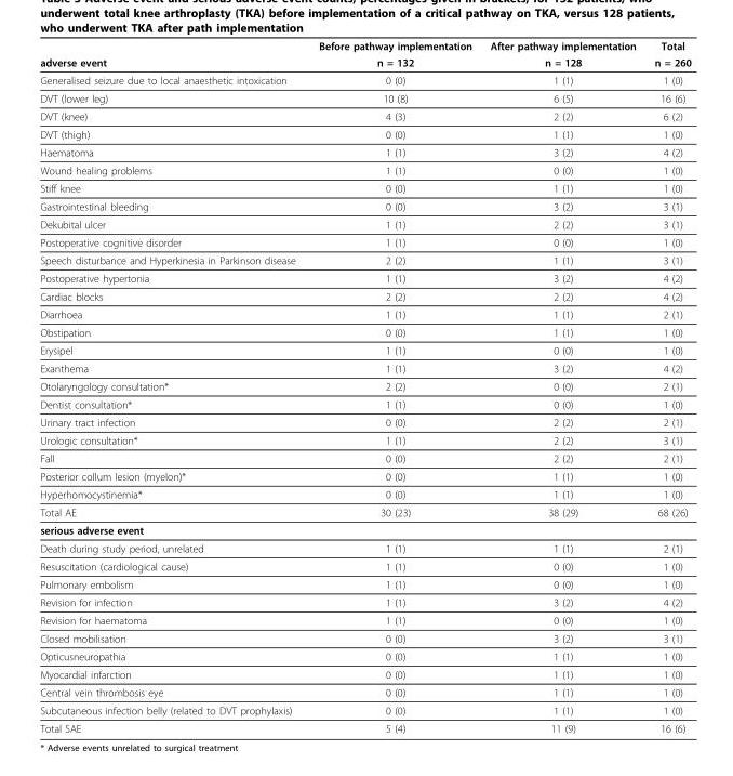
<table><thead><tr><td rowspan="2">adverse event</td><td rowspan="2">Before pathway implementation n = 132</td><td rowspan="2">After pathway implementation n = 128</td><td rowspan="2">Total n = 260</td></tr><tr></tr></thead><tbody><tr><td>Generalised seizure due to local anaesthetic intoxication</td><td>0 (0)</td><td>1 (1)</td><td>1 (0)</td></tr><tr><td>DVT (lower leg)</td><td>10 (8)</td><td>6 (5)</td><td>16 (6)</td></tr><tr><td>DVT (knee)</td><td>4 (3)</td><td>2 (2)</td><td>6 (2)</td></tr><tr><td>DVT (thigh)</td><td>0 (0)</td><td>1 (1)</td><td>1 (0)</td></tr><tr><td>Haematoma</td><td>1 (1)</td><td>3 (2)</td><td>4 (2)</td></tr><tr><td>Wound healing problems</td><td>1 (1)</td><td>0 (0)</td><td>1 (0)</td></tr><tr><td>Stiff knee</td><td>0 (0)</td><td>1 (1)</td><td>1 (0)</td></tr><tr><td>Gastrointestinal bleeding</td><td>0 (0)</td><td>3 (2)</td><td>3 (1)</td></tr><tr><td>Dekubital ulcer</td><td>1 (1)</td><td>2 (2)</td><td>3 (1)</td></tr><tr><td>Postoperative cognitive disorder</td><td>1 (1)</td><td>0 (0)</td><td>1 (0)</td></tr><tr><td>Speech disturbance and Hyperkinesia in Parkinson disease</td><td>2 (2)</td><td>1 (1)</td><td>3 (1)</td></tr><tr><td>Postoperative hypertonia</td><td>1 (1)</td><td>3 (2)</td><td>4 (2)</td></tr><tr><td>Cardiac blocks</td><td>2 (2)</td><td>2 (2)</td><td>4 (2)</td></tr><tr><td>Diarrhoea</td><td>1 (1)</td><td>1 (1)</td><td>2 (1)</td></tr><tr><td>Obstipation</td><td>0 (0)</td><td>1 (1)</td><td>1 (0)</td></tr><tr><td>Erysipel</td><td>1 (1)</td><td>0 (0)</td><td>1 (0)</td></tr><tr><td>Exanthema</td><td>1 (1)</td><td>3 (2)</td><td>4 (2)</td></tr><tr><td>Otolaryngology consultation*</td><td>2 (2)</td><td>0 (0)</td><td>2 (1)</td></tr><tr><td>Dentist consultation*</td><td>1 (1)</td><td>0 (0)</td><td>1 (0)</td></tr><tr><td>Urinary tract infection</td><td>0 (0)</td><td>2 (2)</td><td>2 (1)</td></tr><tr><td>Urologic consultation*</td><td>1 (1)</td><td>2 (2)</td><td>3 (1)</td></tr><tr><td>Fall</td><td>0 (0)</td><td>2 (2)</td><td>2 (1)</td></tr><tr><td>Posterior collum lesion (myelon)*</td><td>0 (0)</td><td>1 (1)</td><td>1 (0)</td></tr><tr><td>Hyperhomocystinemia*</td><td>0 (0)</td><td>1 (1)</td><td>1 (0)</td></tr><tr><td>Total AE</td><td>30 (23)</td><td>38 (29)</td><td>68 (26)</td></tr><tr><td colspan="4">serious adverse event</td></tr><tr><td>Death during study period, unrelated</td><td>1 (1)</td><td>1 (1)</td><td>2 (1)</td></tr><tr><td>Resuscitation (cardiological cause)</td><td>1 (1)</td><td>0 (0)</td><td>1 (0)</td></tr><tr><td>Pulmonary embolism</td><td>1 (1)</td><td>0 (0)</td><td>1 (0)</td></tr><tr><td>Revision for infection</td><td>1 (1)</td><td>3 (2)</td><td>4 (2)</td></tr><tr><td>Revision for haematoma</td><td>1 (1)</td><td>0 (0)</td><td>1 (0)</td></tr><tr><td>Closed mobilisation</td><td>0 (0)</td><td>3 (2)</td><td>3 (1)</td></tr><tr><td>Opticusneuropathia</td><td>0 (0)</td><td>1 (1)</td><td>1 (0)</td></tr><tr><td>Myocardial infarction</td><td>0 (0)</td><td>1 (1)</td><td>1 (0)</td></tr><tr><td>Central vein thrombosis eye</td><td>0 (0)</td><td>1 (1)</td><td>1 (0)</td></tr><tr><td>Subcutaneous infection belly (related to DVT prophylaxis)</td><td>0 (0)</td><td>1 (1)</td><td>1 (0)</td></tr><tr><td>Total SAE</td><td>5 (4)</td><td>11 (9)</td><td>16 (6)</td></tr></tbody></table>